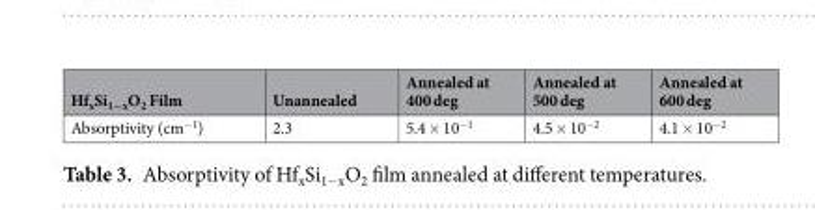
<table><thead><tr><td>Hf<sub>x</sub>Si<sub>1−x</sub>O<sub>2</sub> Film</td><td>Unannealed</td><td>Annealed at 400 deg</td><td>Annealed at 500 deg</td><td>Annealed at 600 deg</td></tr></thead><tbody><tr><td>Absorptivity (cm<sup>−1</sup>)</td><td>2.3</td><td>5.4 × 10<sup>−1</sup></td><td>4.5 × 10<sup>−2</sup></td><td>4.1 × 10<sup>−2</sup></td></tr></tbody></table>